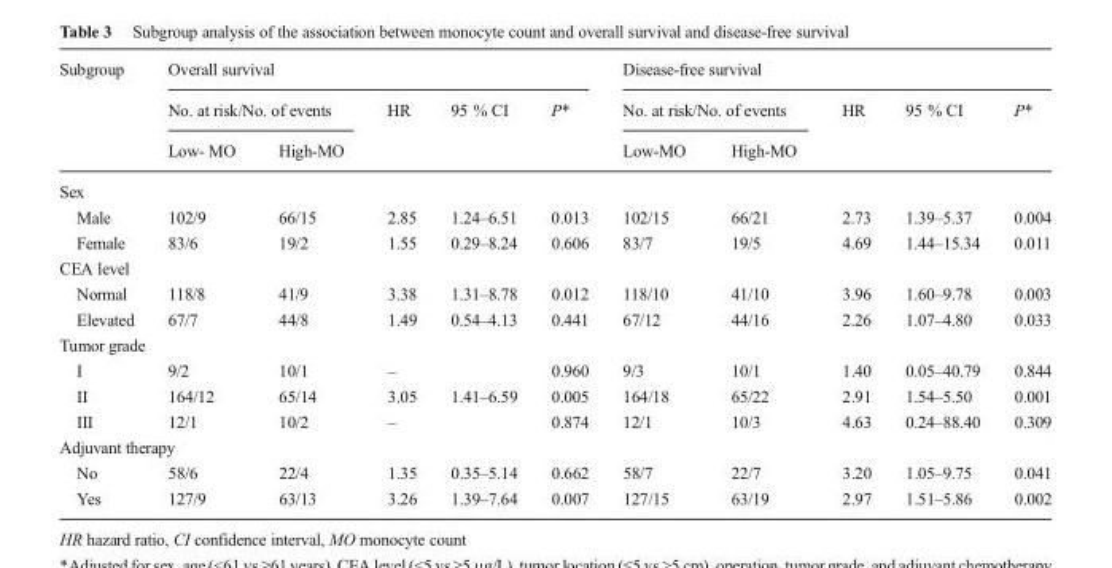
<table><thead><tr><td rowspan="3">Subgroup</td><td colspan="5">Overall survival</td><td colspan="5">Disease-free survival</td></tr><tr><td colspan="2">No. at risk/No. of events</td><td rowspan="2">HR</td><td rowspan="2">95 % CI</td><td rowspan="2">P*</td><td colspan="2">No. at risk/No. of events</td><td rowspan="2">HR</td><td rowspan="2">95 % CI</td><td rowspan="2">P*</td></tr><tr><td>Low- MO</td><td>High-MO</td><td>Low-MO</td><td>High-MO</td></tr></thead><tbody><tr><td colspan="11">Sex</td></tr><tr><td>Male</td><td>102/9</td><td>66/15</td><td>2.85</td><td>1.24–6.51</td><td>0.013</td><td>102/15</td><td>66/21</td><td>2.73</td><td>1.39–5.37</td><td>0.004</td></tr><tr><td>Female</td><td>83/6</td><td>19/2</td><td>1.55</td><td>0.29–8.24</td><td>0.606</td><td>83/7</td><td>19/5</td><td>4.69</td><td>1.44–15.34</td><td>0.011</td></tr><tr><td colspan="11">CEA level</td></tr><tr><td>Normal</td><td>118/8</td><td>41/9</td><td>3.38</td><td>1.31–8.78</td><td>0.012</td><td>118/10</td><td>41/10</td><td>3.96</td><td>1.60–9.78</td><td>0.003</td></tr><tr><td>Elevated</td><td>67/7</td><td>44/8</td><td>1.49</td><td>0.54–4.13</td><td>0.441</td><td>67/12</td><td>44/16</td><td>2.26</td><td>1.07–4.80</td><td>0.033</td></tr><tr><td colspan="11">Tumor grade</td></tr><tr><td>I</td><td>9/2</td><td>10/1</td><td>–</td><td></td><td>0.960</td><td>9/3</td><td>10/1</td><td>1.40</td><td>0.05–40.79</td><td>0.844</td></tr><tr><td>II</td><td>164/12</td><td>65/14</td><td>3.05</td><td>1.41–6.59</td><td>0.005</td><td>164/18</td><td>65/22</td><td>2.91</td><td>1.54–5.50</td><td>0.001</td></tr><tr><td>III</td><td>12/1</td><td>10/2</td><td>–</td><td></td><td>0.874</td><td>12/1</td><td>10/3</td><td>4.63</td><td>0.24–88.40</td><td>0.309</td></tr><tr><td colspan="11">Adjuvant therapy</td></tr><tr><td>No</td><td>58/6</td><td>22/4</td><td>1.35</td><td>0.35–5.14</td><td>0.662</td><td>58/7</td><td>22/7</td><td>3.20</td><td>1.05–9.75</td><td>0.041</td></tr><tr><td>Yes</td><td>127/9</td><td>63/13</td><td>3.26</td><td>1.39–7.64</td><td>0.007</td><td>127/15</td><td>63/19</td><td>2.97</td><td>1.51–5.86</td><td>0.002</td></tr></tbody></table>